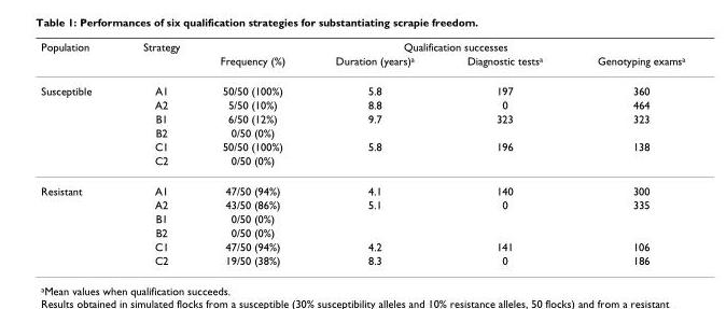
<table><thead><tr><td rowspan="2">Population</td><td rowspan="2">Strategy</td><td colspan="4">Qualification successes</td></tr><tr><td>Frequency (%)</td><td>Duration (years)<sup>a</sup></td><td>Diagnostic tests<sup>a</sup></td><td>Genotyping exams<sup>a</sup></td></tr></thead><tbody><tr><td rowspan="6">Susceptible</td><td>A1</td><td>50/50 (100%)</td><td>5.8</td><td>197</td><td>360</td></tr><tr><td>A2</td><td>5/50 (10%)</td><td>8.8</td><td>0</td><td>464</td></tr><tr><td>B1</td><td>6/50 (12%)</td><td>9.7</td><td>323</td><td>323</td></tr><tr><td>B2</td><td>0/50 (0%)</td><td></td><td></td><td></td></tr><tr><td>C1</td><td>50/50 (100%)</td><td>5.8</td><td>196</td><td>138</td></tr><tr><td>C2</td><td>0/50 (0%)</td><td></td><td></td><td></td></tr><tr><td rowspan="6">Resistant</td><td>A1</td><td>47/50 (94%)</td><td>4.1</td><td>140</td><td>300</td></tr><tr><td>A2</td><td>43/50 (86%)</td><td>5.1</td><td>0</td><td>335</td></tr><tr><td>B1</td><td>0/50 (0%)</td><td></td><td></td><td></td></tr><tr><td>B2</td><td>0/50 (0%)</td><td></td><td></td><td></td></tr><tr><td>C1</td><td>47/50 (94%)</td><td>4.2</td><td>141</td><td>106</td></tr><tr><td>C2</td><td>19/50 (38%)</td><td>8.3</td><td>0</td><td>186</td></tr></tbody></table>